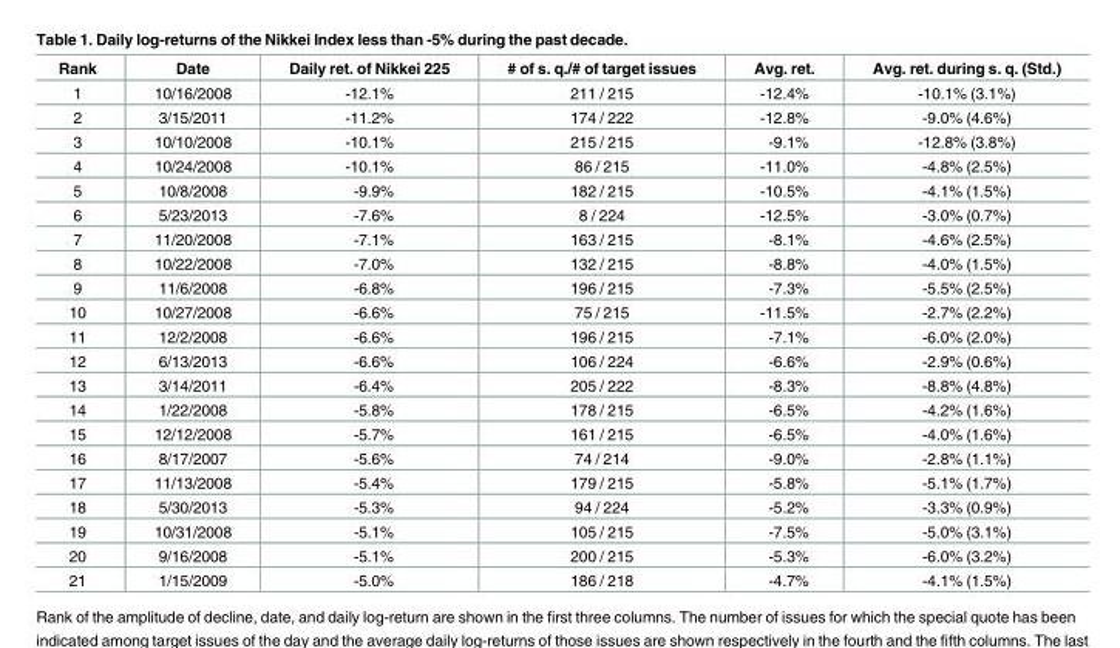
<table><thead><tr><td>Rank</td><td>Date</td><td>Daily ret. of Nikkei 225</td><td># of s. q./# of target issues</td><td>Avg. ret.</td><td>Avg. ret. during s. q. (Std.)</td></tr></thead><tbody><tr><td>1</td><td>10/16/2008</td><td>-12.1%</td><td>211 / 215</td><td>-12.4%</td><td>-10.1% (3.1%)</td></tr><tr><td>2</td><td>3/15/2011</td><td>-11.2%</td><td>174 / 222</td><td>-12.8%</td><td>-9.0% (4.6%)</td></tr><tr><td>3</td><td>10/10/2008</td><td>-10.1%</td><td>215 / 215</td><td>-9.1%</td><td>-12.8% (3.8%)</td></tr><tr><td>4</td><td>10/24/2008</td><td>-10.1%</td><td>86 / 215</td><td>-11.0%</td><td>-4.8% (2.5%)</td></tr><tr><td>5</td><td>10/8/2008</td><td>-9.9%</td><td>182 / 215</td><td>-10.5%</td><td>-4.1% (1.5%)</td></tr><tr><td>6</td><td>5/23/2013</td><td>-7.6%</td><td>8 / 224</td><td>-12.5%</td><td>-3.0% (0.7%)</td></tr><tr><td>7</td><td>11/20/2008</td><td>-7.1%</td><td>163 / 215</td><td>-8.1%</td><td>-4.6% (2.5%)</td></tr><tr><td>8</td><td>10/22/2008</td><td>-7.0%</td><td>132 / 215</td><td>-8.8%</td><td>-4.0% (1.5%)</td></tr><tr><td>9</td><td>11/6/2008</td><td>-6.8%</td><td>196 / 215</td><td>-7.3%</td><td>-5.5% (2.5%)</td></tr><tr><td>10</td><td>10/27/2008</td><td>-6.6%</td><td>75 / 215</td><td>-11.5%</td><td>-2.7% (2.2%)</td></tr><tr><td>11</td><td>12/2/2008</td><td>-6.6%</td><td>196 / 215</td><td>-7.1%</td><td>-6.0% (2.0%)</td></tr><tr><td>12</td><td>6/13/2013</td><td>-6.6%</td><td>106 / 224</td><td>-6.6%</td><td>-2.9% (0.6%)</td></tr><tr><td>13</td><td>3/14/2011</td><td>-6.4%</td><td>205 / 222</td><td>-8.3%</td><td>-8.8% (4.8%)</td></tr><tr><td>14</td><td>1/22/2008</td><td>-5.8%</td><td>178 / 215</td><td>-6.5%</td><td>-4.2% (1.6%)</td></tr><tr><td>15</td><td>12/12/2008</td><td>-5.7%</td><td>161 / 215</td><td>-6.5%</td><td>-4.0% (1.6%)</td></tr><tr><td>16</td><td>8/17/2007</td><td>-5.6%</td><td>74 / 214</td><td>-9.0%</td><td>-2.8% (1.1%)</td></tr><tr><td>17</td><td>11/13/2008</td><td>-5.4%</td><td>179 / 215</td><td>-5.8%</td><td>-5.1% (1.7%)</td></tr><tr><td>18</td><td>5/30/2013</td><td>-5.3%</td><td>94 / 224</td><td>-5.2%</td><td>-3.3% (0.9%)</td></tr><tr><td>19</td><td>10/31/2008</td><td>-5.1%</td><td>105 / 215</td><td>-7.5%</td><td>-5.0% (3.1%)</td></tr><tr><td>20</td><td>9/16/2008</td><td>-5.1%</td><td>200 / 215</td><td>-5.3%</td><td>-6.0% (3.2%)</td></tr><tr><td>21</td><td>1/15/2009</td><td>-5.0%</td><td>186 / 218</td><td>-4.7%</td><td>-4.1% (1.5%)</td></tr></tbody></table>